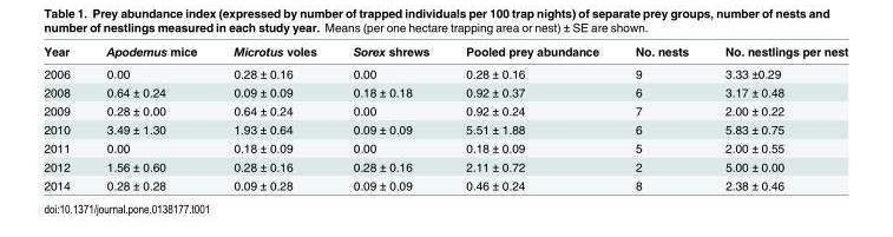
<table><thead><tr><td>Year</td><td>Apodemus mice</td><td>Microtus voles</td><td>Sorex shrews</td><td>Pooled prey abundance</td><td>No. nests</td><td>No. nestlings per nest</td></tr></thead><tbody><tr><td>2006</td><td>0.00</td><td>0.28 ± 0.16</td><td>0.00</td><td>0.28 ± 0.16</td><td>9</td><td>3.33 ±0.29</td></tr><tr><td>2008</td><td>0.64 ± 0.24</td><td>0.09 ± 0.09</td><td>0.18 ± 0.18</td><td>0.92 ± 0.37</td><td>6</td><td>3.17 ± 0.48</td></tr><tr><td>2009</td><td>0.28 ± 0.00</td><td>0.64 ± 0.24</td><td>0.00</td><td>0.92 ± 0.24</td><td>7</td><td>2.00 ± 0.22</td></tr><tr><td>2010</td><td>3.49 ± 1.30</td><td>1.93 ± 0.64</td><td>0.09 ± 0.09</td><td>5.51 ± 1.88</td><td>6</td><td>5.83 ± 0.75</td></tr><tr><td>2011</td><td>0.00</td><td>0.18 ± 0.09</td><td>0.00</td><td>0.18 ± 0.09</td><td>5</td><td>2.00 ± 0.55</td></tr><tr><td>2012</td><td>1.56 ± 0.60</td><td>0.28 ± 0.16</td><td>0.28 ± 0.16</td><td>2.11 ± 0.72</td><td>2</td><td>5.00 ± 0.00</td></tr><tr><td>2014</td><td>0.28 ± 0.28</td><td>0.09 ± 0.28</td><td>0.09 ± 0.09</td><td>0.46 ± 0.24</td><td>8</td><td>2.38 ± 0.46</td></tr></tbody></table>